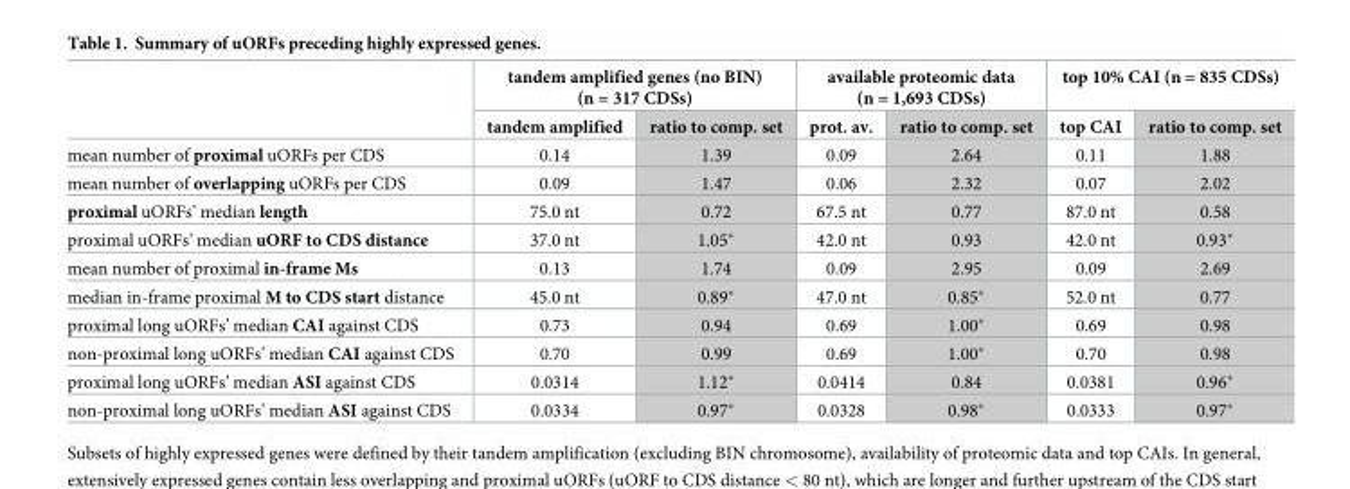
<table><thead><tr><td rowspan="2"></td><td colspan="2">tandem amplified genes (no BIN) (n = 317 CDSs)</td><td colspan="2">available proteomic data (n = 1,693 CDSs)</td><td colspan="2">top 10% CAI (n = 835 CDSs)</td></tr><tr><td>tandem amplified</td><td>ratio to comp. set</td><td>prot. av.</td><td>ratio to comp. set</td><td>top CAI</td><td>ratio to comp. set</td></tr></thead><tbody><tr><td>mean number of proximal uORFs per CDS</td><td>0.14</td><td>1.39</td><td>0.09</td><td>2.64</td><td>0.11</td><td>1.88</td></tr><tr><td>mean number of overlapping uORFs per CDS</td><td>0.09</td><td>1.47</td><td>0.06</td><td>2.32</td><td>0.07</td><td>2.02</td></tr><tr><td>proximal uORFs’ median length</td><td>75.0 nt</td><td>0.72</td><td>67.5 nt</td><td>0.77</td><td>87.0 nt</td><td>0.58</td></tr><tr><td>proximal uORFs’ median uORF to CDS distance</td><td>37.0 nt</td><td>1.05*</td><td>42.0 nt</td><td>0.93</td><td>42.0 nt</td><td>0.93*</td></tr><tr><td>mean number of proximal in-frame Ms</td><td>0.13</td><td>1.74</td><td>0.09</td><td>2.95</td><td>0.09</td><td>2.69</td></tr><tr><td>median in-frame proximal M to CDS start distance</td><td>45.0 nt</td><td>0.89*</td><td>47.0 nt</td><td>0.85*</td><td>52.0 nt</td><td>0.77</td></tr><tr><td>proximal long uORFs’ median CAI against CDS</td><td>0.73</td><td>0.94</td><td>0.69</td><td>1.00*</td><td>0.69</td><td>0.98</td></tr><tr><td>non-proximal long uORFs’ median CAI against CDS</td><td>0.70</td><td>0.99</td><td>0.69</td><td>1.00*</td><td>0.70</td><td>0.98</td></tr><tr><td>proximal long uORFs’ median ASI against CDS</td><td>0.0314</td><td>1.12*</td><td>0.0414</td><td>0.84</td><td>0.0381</td><td>0.96*</td></tr><tr><td>non-proximal long uORFs’ median ASI against CDS</td><td>0.0334</td><td>0.97*</td><td>0.0328</td><td>0.98*</td><td>0.0333</td><td>0.97*</td></tr></tbody></table>